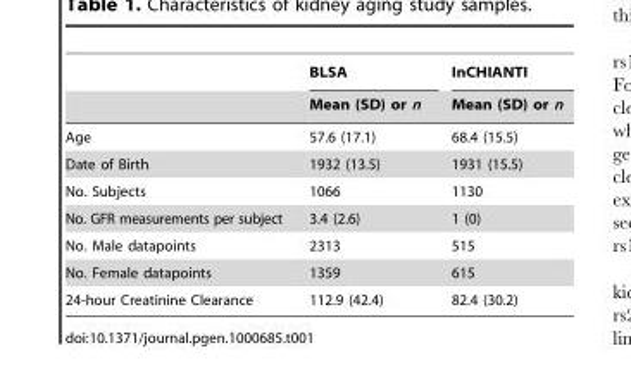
<table><thead><tr><td rowspan="2"></td><td rowspan="2">BLSA Mean (SD) or n</td><td rowspan="2">InCHIANTI Mean (SD) or n</td></tr><tr></tr></thead><tbody><tr><td>Age</td><td>57.6 (17.1)</td><td>68.4 (15.5)</td></tr><tr><td>Date of Birth</td><td>1932 (13.5)</td><td>1931 (15.5)</td></tr><tr><td>No. Subjects</td><td>1066</td><td>1130</td></tr><tr><td>No. GFR measurements per subject</td><td>3.4 (2.6)</td><td>1 (0)</td></tr><tr><td>No. Male datapoints</td><td>2313</td><td>515</td></tr><tr><td>No. Female datapoints</td><td>1359</td><td>615</td></tr><tr><td>24-hour Creatinine Clearance</td><td>112.9 (42.4)</td><td>82.4 (30.2)</td></tr></tbody></table>